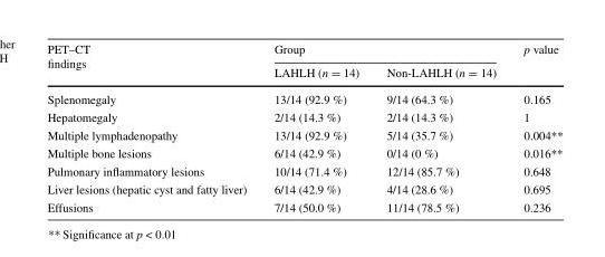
<table><thead><tr><td rowspan="2">PET–CT findings</td><td colspan="2">Group</td><td rowspan="2">p value</td></tr><tr><td>LAHLH (n = 14)</td><td>Non-LAHLH (n = 14)</td></tr></thead><tbody><tr><td>Splenomegaly</td><td>13/14 (92.9 %)</td><td>9/14 (64.3 %)</td><td>0.165</td></tr><tr><td>Hepatomegaly</td><td>2/14 (14.3 %)</td><td>2/14 (14.3 %)</td><td>1</td></tr><tr><td>Multiple lymphadenopathy</td><td>13/14 (92.9 %)</td><td>5/14 (35.7 %)</td><td>0.004**</td></tr><tr><td>Multiple bone lesions</td><td>6/14 (42.9 %)</td><td>0/14 (0 %)</td><td>0.016**</td></tr><tr><td>Pulmonary inflammatory lesions</td><td>10/14 (71.4 %)</td><td>12/14 (85.7 %)</td><td>0.648</td></tr><tr><td>Liver lesions (hepatic cyst and fatty liver)</td><td>6/14 (42.9 %)</td><td>4/14 (28.6 %)</td><td>0.695</td></tr><tr><td>Effusions</td><td>7/14 (50.0 %)</td><td>11/14 (78.5 %)</td><td>0.236</td></tr></tbody></table>